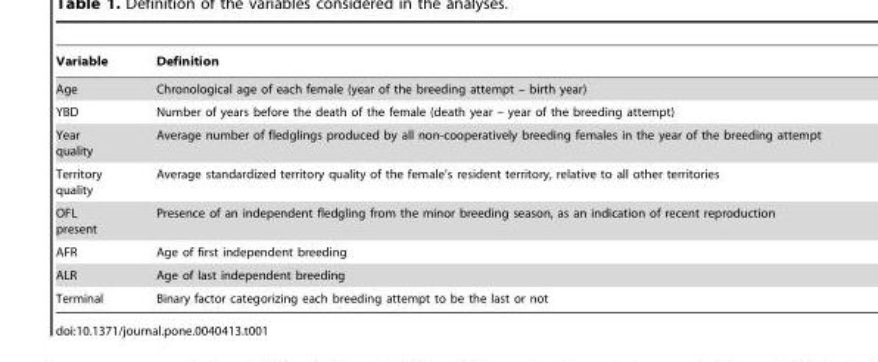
<table><thead><tr><td>Variable</td><td>Definition</td></tr></thead><tbody><tr><td>Age</td><td>Chronological age of each female (year of the breeding attempt – birth year)</td></tr><tr><td>YBD</td><td>Number of years before the death of the female (death year – year of the breeding attempt)</td></tr><tr><td>Year quality</td><td>Average number of fledglings produced by all non-cooperatively breeding females in the year of the breeding attempt</td></tr><tr><td>Territory quality</td><td>Average standardized territory quality of the female’s resident territory, relative to all other territories</td></tr><tr><td>OFL present</td><td>Presence of an independent fledgling from the minor breeding season, as an indication of recent reproduction</td></tr><tr><td>AFR</td><td>Age of first independent breeding</td></tr><tr><td>ALR</td><td>Age of last independent breeding</td></tr><tr><td>Terminal</td><td>Binary factor categorizing each breeding attempt to be the last or not</td></tr></tbody></table>